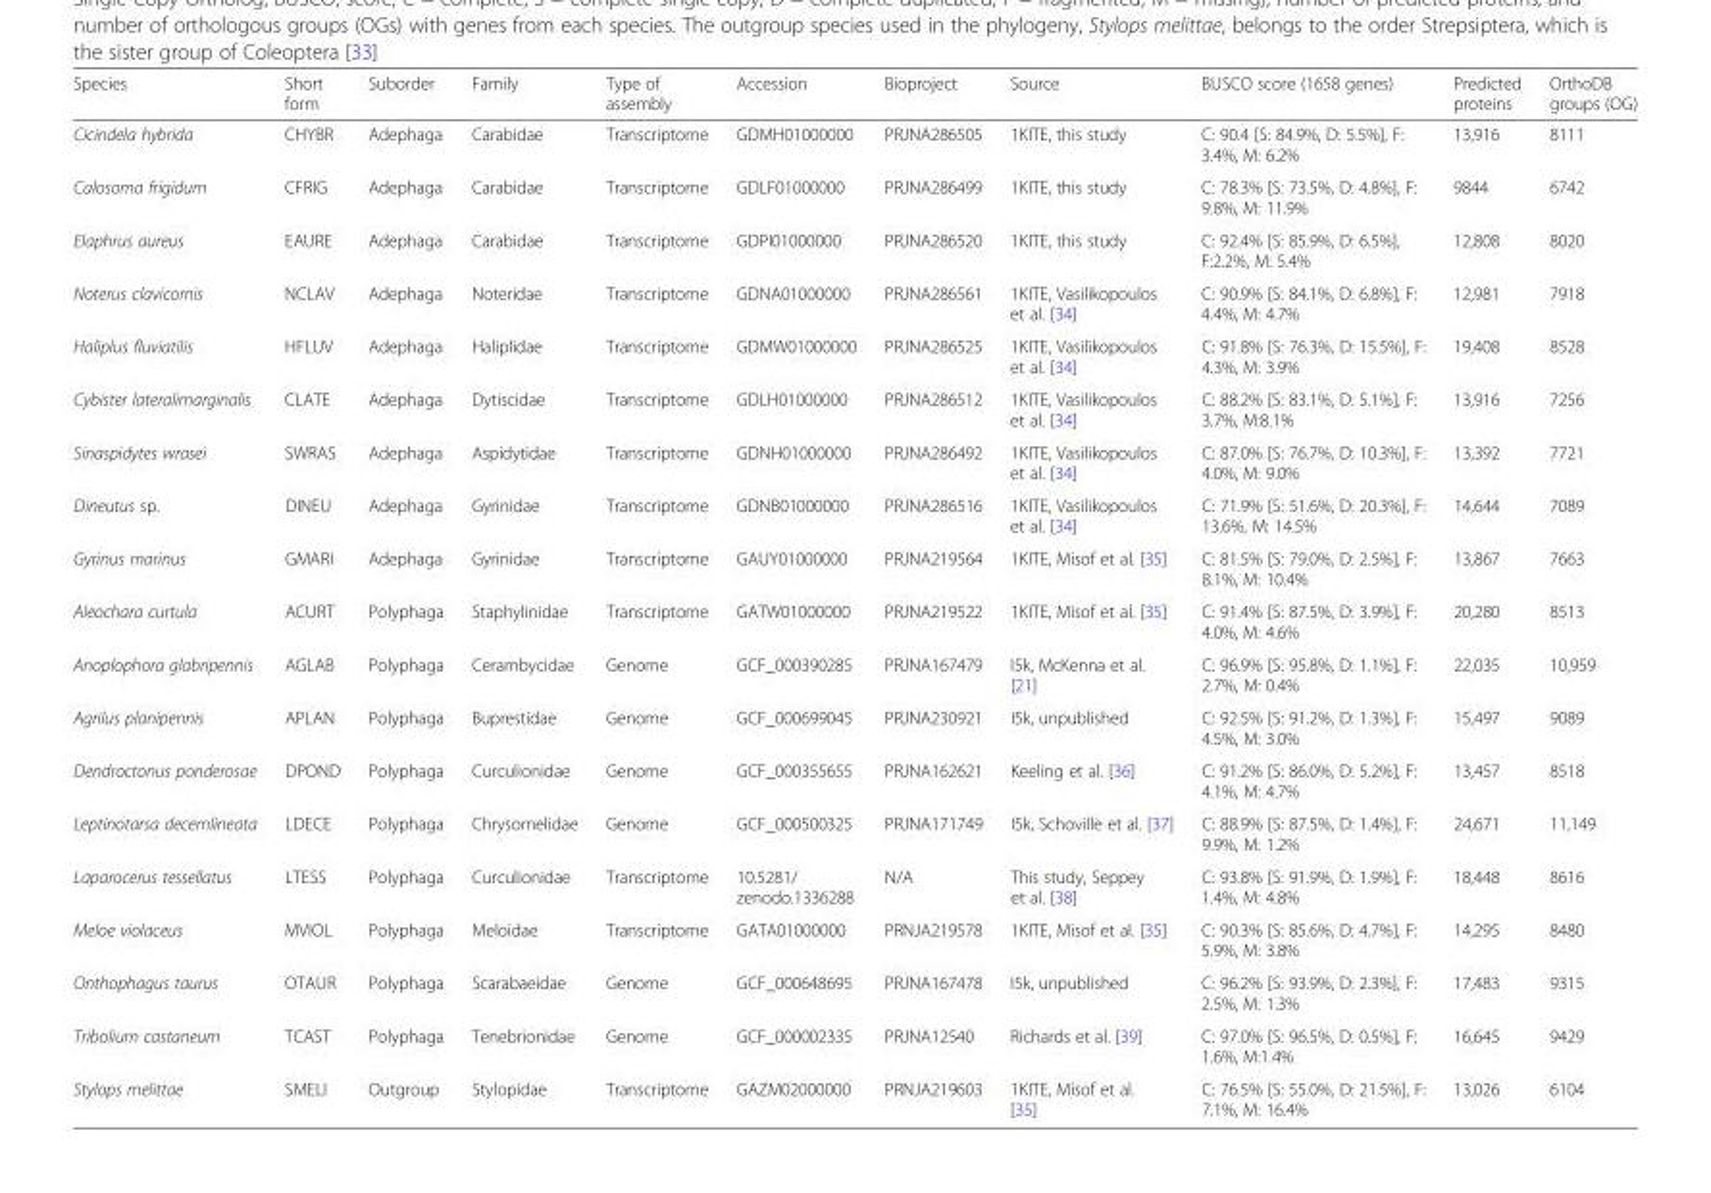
<table><thead><tr><td>Species</td><td>Short form</td><td>Suborder</td><td>Family</td><td>Type of assembly</td><td>Accession</td><td>Bioproject</td><td>Source</td><td>BUSCO score (1658 genes)</td><td>Predicted proteins</td><td>OrthoDB groups (OG)</td></tr></thead><tbody><tr><td>Cicindela hybrida</td><td>CHYBR</td><td>Adephaga</td><td>Carabidae</td><td>Transcriptome</td><td>GDMH01000000</td><td>PRJNA286505</td><td>1KITE, this study</td><td>C: 90.4 [S: 84.9%, D: 5.5%], F: 3.4%, M: 6.2%</td><td>13,916</td><td>8111</td></tr><tr><td>Calosoma frigidum</td><td>CFRIG</td><td>Adephaga</td><td>Carabidae</td><td>Transcriptome</td><td>GDLF01000000</td><td>PRJNA286499</td><td>1KITE, this study</td><td>C: 78.3% [S: 73.5%, D: 4.8%], F: 9.8%, M: 11.9%</td><td>9844</td><td>6742</td></tr><tr><td>Elaphrus aureus</td><td>EAURE</td><td>Adephaga</td><td>Carabidae</td><td>Transcriptome</td><td>GDPI01000000</td><td>PRJNA286520</td><td>1KITE, this study</td><td>C: 92.4% [S: 85.9%, D: 6.5%], F:2.2%, M: 5.4%</td><td>12,808</td><td>8020</td></tr><tr><td>Noterus clavicornis</td><td>NCLAV</td><td>Adephaga</td><td>Noteridae</td><td>Transcriptome</td><td>GDNA01000000</td><td>PRJNA286561</td><td>1KITE, Vasilikopoulos et al. [34]</td><td>C: 90.9% [S: 84.1%, D: 6.8%], F: 4.4%, M: 4.7%</td><td>12,981</td><td>7918</td></tr><tr><td>Haliplus fluviatilis</td><td>HFLUV</td><td>Adephaga</td><td>Haliplidae</td><td>Transcriptome</td><td>GDMW01000000</td><td>PRJNA286525</td><td>1KITE, Vasilikopoulos et al. [34]</td><td>C: 91.8% [S: 76.3%, D: 15.5%], F: 4.3%, M: 3.9%</td><td>19,408</td><td>8528</td></tr><tr><td>Cybister lateralimarginalis</td><td>CLATE</td><td>Adephaga</td><td>Dytiscidae</td><td>Transcriptome</td><td>GDLH01000000</td><td>PRJNA286512</td><td>1KITE, Vasilikopoulos et al. [34]</td><td>C: 88.2% [S: 83.1%, D: 5.1%], F: 3.7%, M:8.1%</td><td>13,916</td><td>7256</td></tr><tr><td>Sinaspidytes wrasei</td><td>SWRAS</td><td>Adephaga</td><td>Aspidytidae</td><td>Transcriptome</td><td>GDNH01000000</td><td>PRJNA286492</td><td>1KITE, Vasilikopoulos et al. [34]</td><td>C: 87.0% [S: 76.7%, D: 10.3%], F: 4.0%, M: 9.0%</td><td>13,392</td><td>7721</td></tr><tr><td>Dineutus sp.</td><td>DINEU</td><td>Adephaga</td><td>Gyrinidae</td><td>Transcriptome</td><td>GDNB01000000</td><td>PRJNA286516</td><td>1KITE, Vasilikopoulos et al. [34]</td><td>C: 71.9% [S: 51.6%, D: 20.3%], F: 13.6%, M: 14.5%</td><td>14,644</td><td>7089</td></tr><tr><td>Gyrinus marinus</td><td>GMARI</td><td>Adephaga</td><td>Gyrinidae</td><td>Transcriptome</td><td>GAUY01000000</td><td>PRJNA219564</td><td>1KITE, Misof et al. [35]</td><td>C: 81.5% [S: 79.0%, D: 2.5%], F: 8.1%, M: 10.4%</td><td>13,867</td><td>7663</td></tr><tr><td>Aleochara curtula</td><td>ACURT</td><td>Polyphaga</td><td>Staphylinidae</td><td>Transcriptome</td><td>GATW01000000</td><td>PRJNA219522</td><td>1KITE, Misof et al. [35]</td><td>C: 91.4% [S: 87.5%, D: 3.9%], F: 4.0%, M: 4.6%</td><td>20,280</td><td>8513</td></tr><tr><td>Anoplophora glabripennis</td><td>AGLAB</td><td>Polyphaga</td><td>Cerambycidae</td><td>Genome</td><td>GCF_000390285</td><td>PRJNA167479</td><td>I5k, McKenna et al. [21]</td><td>C: 96.9% [S: 95.8%, D: 1.1%], F: 2.7%, M: 0.4%</td><td>22,035</td><td>10,959</td></tr><tr><td>Agrilus planipennis</td><td>APLAN</td><td>Polyphaga</td><td>Buprestidae</td><td>Genome</td><td>GCF_000699045</td><td>PRJNA230921</td><td>I5k, unpublished</td><td>C: 92.5% [S: 91.2%, D: 1.3%], F: 4.5%, M: 3.0%</td><td>15,497</td><td>9089</td></tr><tr><td>Dendroctonus ponderosae</td><td>DPOND</td><td>Polyphaga</td><td>Curculionidae</td><td>Genome</td><td>GCF_000355655</td><td>PRJNA162621</td><td>Keeling et al. [36]</td><td>C: 91.2% [S: 86.0%, D: 5.2%], F: 4.1%, M: 4.7%</td><td>13,457</td><td>8518</td></tr><tr><td>Leptinotarsa decemlineata</td><td>LDECE</td><td>Polyphaga</td><td>Chrysomelidae</td><td>Genome</td><td>GCF_000500325</td><td>PRJNA171749</td><td>I5k, Schoville et al. [37]</td><td>C: 88.9% [S: 87.5%, D: 1.4%], F: 9.9%, M: 1.2%</td><td>24,671</td><td>11,149</td></tr><tr><td>Laparocerus tessellatus</td><td>LTESS</td><td>Polyphaga</td><td>Curculionidae</td><td>Transcriptome</td><td>10.5281/ zenodo.1336288</td><td>N/A</td><td>This study, Seppey et al. [38]</td><td>C: 93.8% [S: 91.9%, D: 1.9%], F: 1.4%, M: 4.8%</td><td>18,448</td><td>8616</td></tr><tr><td>Meloe violaceus</td><td>MVIOL</td><td>Polyphaga</td><td>Meloidae</td><td>Transcriptome</td><td>GATA01000000</td><td>PRNJA219578</td><td>1KITE, Misof et al. [35]</td><td>C: 90.3% [S: 85.6%, D: 4.7%], F: 5.9%, M: 3.8%</td><td>14,295</td><td>8480</td></tr><tr><td>Onthophagus taurus</td><td>OTAUR</td><td>Polyphaga</td><td>Scarabaeidae</td><td>Genome</td><td>GCF_000648695</td><td>PRJNA167478</td><td>I5k, unpublished</td><td>C: 96.2% [S: 93.9%, D: 2.3%], F: 2.5%, M: 1.3%</td><td>17,483</td><td>9315</td></tr><tr><td>Tribolium castaneum</td><td>TCAST</td><td>Polyphaga</td><td>Tenebrionidae</td><td>Genome</td><td>GCF_000002335</td><td>PRJNA12540</td><td>Richards et al. [39]</td><td>C: 97.0% [S: 96.5%, D: 0.5%], F: 1.6%, M:1.4%</td><td>16,645</td><td>9429</td></tr><tr><td>Stylops melittae</td><td>SMELI</td><td>Outgroup</td><td>Stylopidae</td><td>Transcriptome</td><td>GAZM02000000</td><td>PRNJA219603</td><td>1KITE, Misof et al. [35]</td><td>C: 76.5% [S: 55.0%, D: 21.5%], F: 7.1%, M: 16.4%</td><td>13,026</td><td>6104</td></tr></tbody></table>